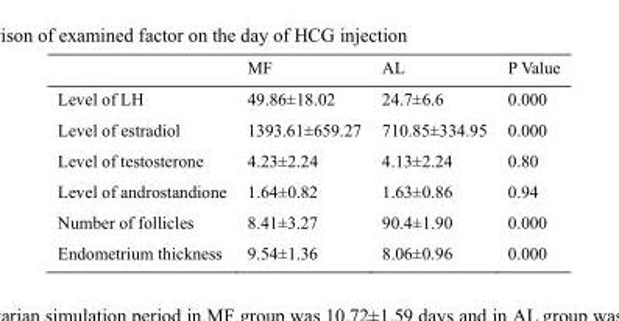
<table><thead><tr><td></td><td>MF</td><td>AL</td><td>P Value</td></tr></thead><tbody><tr><td>Level of LH</td><td>49.86±18.02</td><td>24.7±6.6</td><td>0.000</td></tr><tr><td>Level of estradiol</td><td>1393.61±659.27</td><td>710.85±334.95</td><td>0.000</td></tr><tr><td>Level of testosterone</td><td>4.23±2.24</td><td>4.13±2.24</td><td>0.80</td></tr><tr><td>Level of androstandione</td><td>1.64±0.82</td><td>1.63±0.86</td><td>0.94</td></tr><tr><td>Number of follicles</td><td>8.41±3.27</td><td>90.4±1.90</td><td>0.000</td></tr><tr><td>Endometrium thickness</td><td>9.54±1.36</td><td>8.06±0.96</td><td>0.000</td></tr></tbody></table>